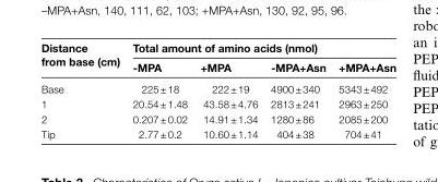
<table><thead><tr><td rowspan="2">Distance from base (cm)</td><td colspan="4">Total amount of amino acids (nmol)</td></tr><tr><td>-MPA</td><td>+MPA</td><td>-MPA+Asn</td><td>+MPA+Asn</td></tr></thead><tbody><tr><td>Base</td><td>225 ± 18</td><td>222 ± 19</td><td>4900 ± 340</td><td>5343 ± 492</td></tr><tr><td>1</td><td>20.54 ± 1.48</td><td>43.58 ± 4.76</td><td>2813 ± 241</td><td>2963 ± 250</td></tr><tr><td>2</td><td>0.207 ± 0.02</td><td>14.91 ± 1.34</td><td>1280 ± 86</td><td>2085 ± 200</td></tr><tr><td>Tip</td><td>2.77 ± 0.2</td><td>10.60 ± 1.14</td><td>404 ± 38</td><td>704 ± 41</td></tr></tbody></table>